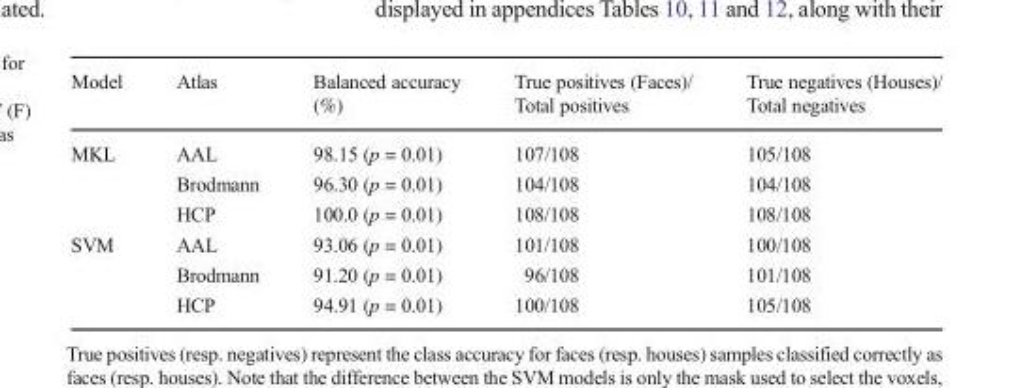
<table><thead><tr><td>Model</td><td>Atlas</td><td>Balanced accuracy (%)</td><td>True positives (Faces)/ Total positives</td><td>True negatives (Houses)/ Total negatives</td></tr></thead><tbody><tr><td rowspan="3">MKL</td><td>AAL</td><td>98.15 (p = 0.01)</td><td>107/108</td><td>105/108</td></tr><tr><td>Brodmann</td><td>96.30 (p = 0.01)</td><td>104/108</td><td>104/108</td></tr><tr><td>HCP</td><td>100.0 (p = 0.01)</td><td>108/108</td><td>108/108</td></tr><tr><td rowspan="3">SVM</td><td>AAL</td><td>93.06 (p = 0.01)</td><td>101/108</td><td>100/108</td></tr><tr><td>Brodmann</td><td>91.20 (p = 0.01)</td><td>96/108</td><td>101/108</td></tr><tr><td>HCP</td><td>94.91 (p = 0.01)</td><td>100/108</td><td>105/108</td></tr></tbody></table>